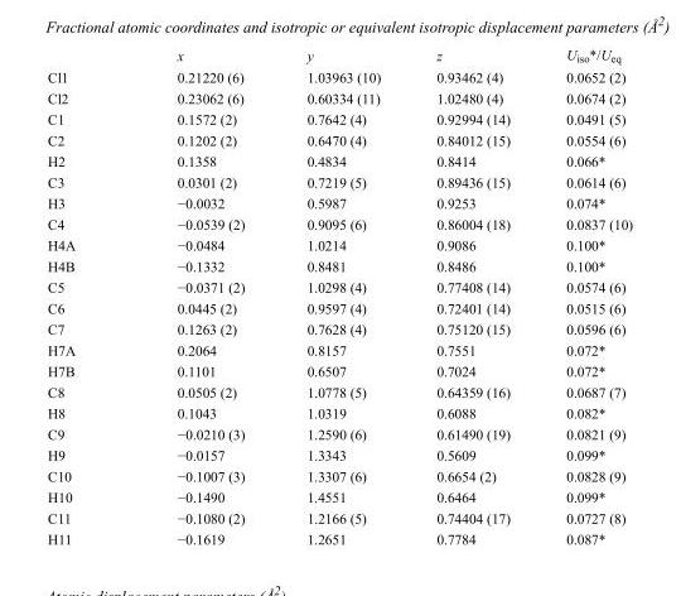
<table><thead><tr><td></td><td>x</td><td>y</td><td>z</td><td>U<sub>iso</sub>*/U<sub>eq</sub></td></tr></thead><tbody><tr><td>Cl1</td><td>0.21220 (6)</td><td>1.03963 (10)</td><td>0.93462 (4)</td><td>0.0652 (2)</td></tr><tr><td>Cl2</td><td>0.23062 (6)</td><td>0.60334 (11)</td><td>1.02480 (4)</td><td>0.0674 (2)</td></tr><tr><td>C1</td><td>0.1572 (2)</td><td>0.7642 (4)</td><td>0.92994 (14)</td><td>0.0491 (5)</td></tr><tr><td>C2</td><td>0.1202 (2)</td><td>0.6470 (4)</td><td>0.84012 (15)</td><td>0.0554 (6)</td></tr><tr><td>H2</td><td>0.1358</td><td>0.4834</td><td>0.8414</td><td>0.066*</td></tr><tr><td>C3</td><td>0.0301 (2)</td><td>0.7219 (5)</td><td>0.89436 (15)</td><td>0.0614 (6)</td></tr><tr><td>H3</td><td>−0.0032</td><td>0.5987</td><td>0.9253</td><td>0.074*</td></tr><tr><td>C4</td><td>−0.0539 (2)</td><td>0.9095 (6)</td><td>0.86004 (18)</td><td>0.0837 (10)</td></tr><tr><td>H4A</td><td>−0.0484</td><td>1.0214</td><td>0.9086</td><td>0.100*</td></tr><tr><td>H4B</td><td>−0.1332</td><td>0.8481</td><td>0.8486</td><td>0.100*</td></tr><tr><td>C5</td><td>−0.0371 (2)</td><td>1.0298 (4)</td><td>0.77408 (14)</td><td>0.0574 (6)</td></tr><tr><td>C6</td><td>0.0445 (2)</td><td>0.9597 (4)</td><td>0.72401 (14)</td><td>0.0515 (6)</td></tr><tr><td>C7</td><td>0.1263 (2)</td><td>0.7628 (4)</td><td>0.75120 (15)</td><td>0.0596 (6)</td></tr><tr><td>H7A</td><td>0.2064</td><td>0.8157</td><td>0.7551</td><td>0.072*</td></tr><tr><td>H7B</td><td>0.1101</td><td>0.6507</td><td>0.7024</td><td>0.072*</td></tr><tr><td>C8</td><td>0.0505 (2)</td><td>1.0778 (5)</td><td>0.64359 (16)</td><td>0.0687 (7)</td></tr><tr><td>H8</td><td>0.1043</td><td>1.0319</td><td>0.6088</td><td>0.082*</td></tr><tr><td>C9</td><td>−0.0210 (3)</td><td>1.2590 (6)</td><td>0.61490 (19)</td><td>0.0821 (9)</td></tr><tr><td>H9</td><td>−0.0157</td><td>1.3343</td><td>0.5609</td><td>0.099*</td></tr><tr><td>C10</td><td>−0.1007 (3)</td><td>1.3307 (6)</td><td>0.6654 (2)</td><td>0.0828 (9)</td></tr><tr><td>H10</td><td>−0.1490</td><td>1.4551</td><td>0.6464</td><td>0.099*</td></tr><tr><td>C11</td><td>−0.1080 (2)</td><td>1.2166 (5)</td><td>0.74404 (17)</td><td>0.0727 (8)</td></tr><tr><td>H11</td><td>−0.1619</td><td>1.2651</td><td>0.7784</td><td>0.087*</td></tr></tbody></table>